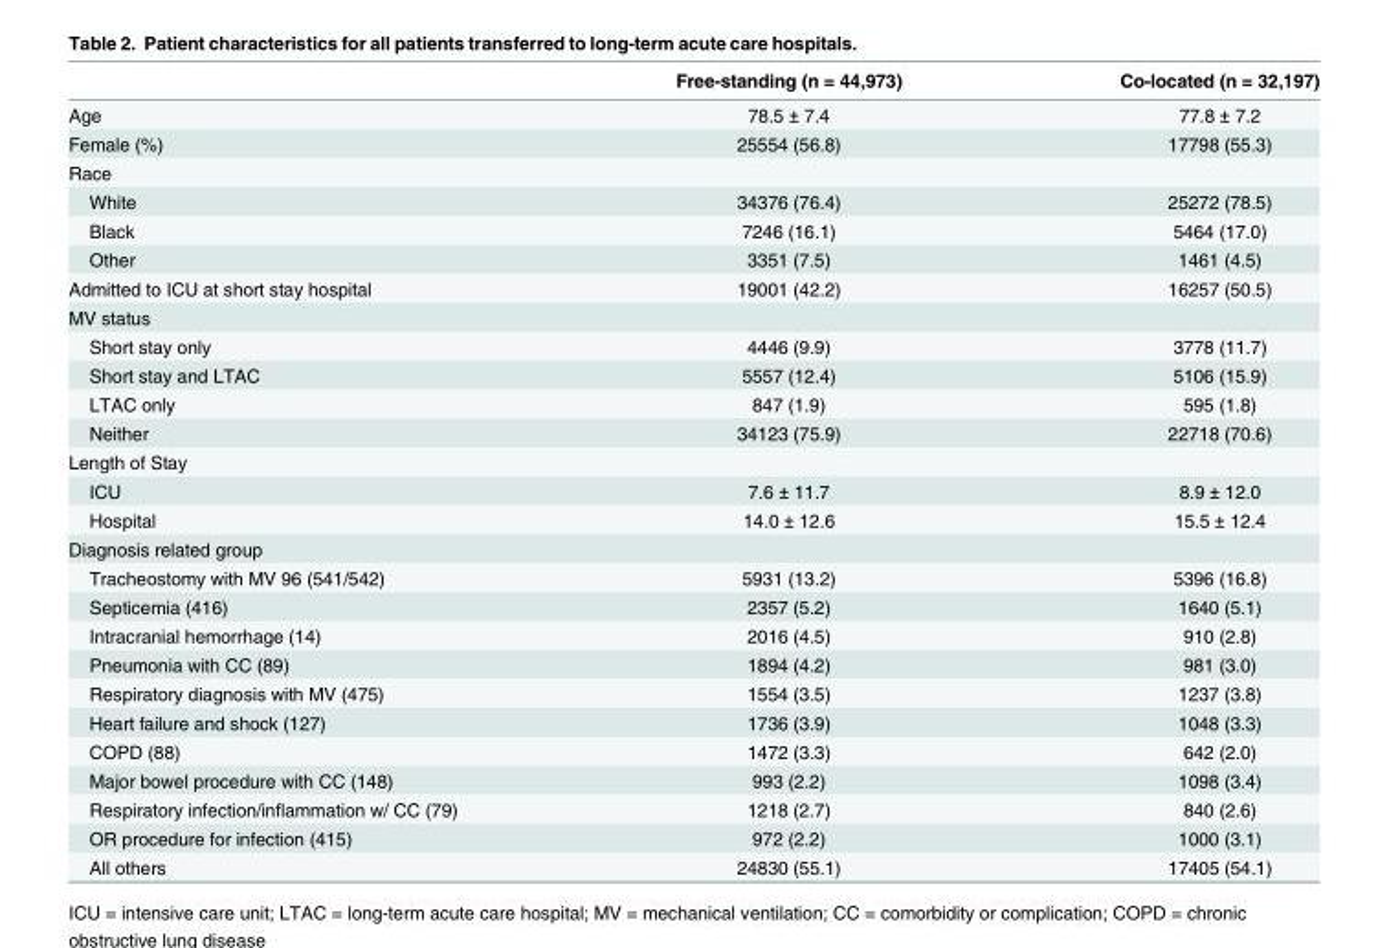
<table><thead><tr><td></td><td>Free-standing (n = 44,973)</td><td>Co-located (n = 32,197)</td></tr></thead><tbody><tr><td>Age</td><td>78.5 ± 7.4</td><td>77.8 ± 7.2</td></tr><tr><td>Female (%)</td><td>25554 (56.8)</td><td>17798 (55.3)</td></tr><tr><td colspan="3">Race</td></tr><tr><td>White</td><td>34376 (76.4)</td><td>25272 (78.5)</td></tr><tr><td>Black</td><td>7246 (16.1)</td><td>5464 (17.0)</td></tr><tr><td>Other</td><td>3351 (7.5)</td><td>1461 (4.5)</td></tr><tr><td>Admitted to ICU at short stay hospital</td><td>19001 (42.2)</td><td>16257 (50.5)</td></tr><tr><td colspan="3">MV status</td></tr><tr><td>Short stay only</td><td>4446 (9.9)</td><td>3778 (11.7)</td></tr><tr><td>Short stay and LTAC</td><td>5557 (12.4)</td><td>5106 (15.9)</td></tr><tr><td>LTAC only</td><td>847 (1.9)</td><td>595 (1.8)</td></tr><tr><td>Neither</td><td>34123 (75.9)</td><td>22718 (70.6)</td></tr><tr><td colspan="3">Length of Stay</td></tr><tr><td>ICU</td><td>7.6 ± 11.7</td><td>8.9 ± 12.0</td></tr><tr><td>Hospital</td><td>14.0 ± 12.6</td><td>15.5 ± 12.4</td></tr><tr><td colspan="3">Diagnosis related group</td></tr><tr><td>Tracheostomy with MV 96 (541/542)</td><td>5931 (13.2)</td><td>5396 (16.8)</td></tr><tr><td>Septicemia (416)</td><td>2357 (5.2)</td><td>1640 (5.1)</td></tr><tr><td>Intracranial hemorrhage (14)</td><td>2016 (4.5)</td><td>910 (2.8)</td></tr><tr><td>Pneumonia with CC (89)</td><td>1894 (4.2)</td><td>981 (3.0)</td></tr><tr><td>Respiratory diagnosis with MV (475)</td><td>1554 (3.5)</td><td>1237 (3.8)</td></tr><tr><td>Heart failure and shock (127)</td><td>1736 (3.9)</td><td>1048 (3.3)</td></tr><tr><td>COPD (88)</td><td>1472 (3.3)</td><td>642 (2.0)</td></tr><tr><td>Major bowel procedure with CC (148)</td><td>993 (2.2)</td><td>1098 (3.4)</td></tr><tr><td>Respiratory infection/inflammation w/ CC (79)</td><td>1218 (2.7)</td><td>840 (2.6)</td></tr><tr><td>OR procedure for infection (415)</td><td>972 (2.2)</td><td>1000 (3.1)</td></tr><tr><td>All others</td><td>24830 (55.1)</td><td>17405 (54.1)</td></tr></tbody></table>